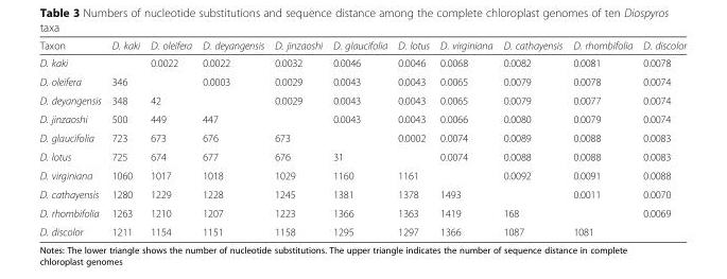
<table><thead><tr><td>Taxon</td><td>D. kaki</td><td>D. oleifera</td><td>D. deyangensis</td><td>D. jinzaoshi</td><td>D. glaucifolia</td><td>D. lotus</td><td>D. virginiana</td><td>D. cathayensis</td><td>D. rhombifolia</td><td>D. discolor</td></tr></thead><tbody><tr><td>D. kaki</td><td></td><td>0.0022</td><td>0.0022</td><td>0.0032</td><td>0.0046</td><td>0.0046</td><td>0.0068</td><td>0.0082</td><td>0.0081</td><td>0.0078</td></tr><tr><td>D. oleifera</td><td>346</td><td></td><td>0.0003</td><td>0.0029</td><td>0.0043</td><td>0.0043</td><td>0.0065</td><td>0.0079</td><td>0.0078</td><td>0.0074</td></tr><tr><td>D. deyangensis</td><td>348</td><td>42</td><td></td><td>0.0029</td><td>0.0043</td><td>0.0043</td><td>0.0065</td><td>0.0079</td><td>0.0077</td><td>0.0074</td></tr><tr><td>D. jinzaoshi</td><td>500</td><td>449</td><td>447</td><td></td><td>0.0043</td><td>0.0043</td><td>0.0066</td><td>0.0080</td><td>0.0079</td><td>0.0074</td></tr><tr><td>D. glaucifolia</td><td>723</td><td>673</td><td>676</td><td>673</td><td></td><td>0.0002</td><td>0.0074</td><td>0.0089</td><td>0.0088</td><td>0.0083</td></tr><tr><td>D. lotus</td><td>725</td><td>674</td><td>677</td><td>676</td><td>31</td><td></td><td>0.0074</td><td>0.0088</td><td>0.0088</td><td>0.0083</td></tr><tr><td>D. virginiana</td><td>1060</td><td>1017</td><td>1018</td><td>1029</td><td>1160</td><td>1161</td><td></td><td>0.0092</td><td>0.0091</td><td>0.0088</td></tr><tr><td>D. cathayensis</td><td>1280</td><td>1229</td><td>1228</td><td>1245</td><td>1381</td><td>1378</td><td>1493</td><td></td><td>0.0011</td><td>0.0070</td></tr><tr><td>D. rhombifolia</td><td>1263</td><td>1210</td><td>1207</td><td>1223</td><td>1366</td><td>1363</td><td>1419</td><td>168</td><td></td><td>0.0069</td></tr><tr><td>D. discolor</td><td>1211</td><td>1154</td><td>1151</td><td>1158</td><td>1295</td><td>1297</td><td>1366</td><td>1087</td><td>1081</td><td></td></tr></tbody></table>